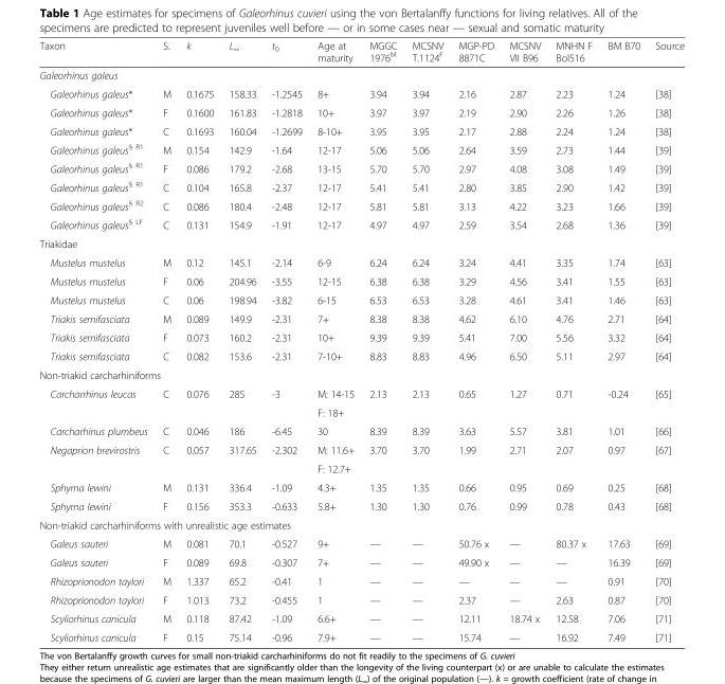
<table><thead><tr><td>Taxon</td><td>S.</td><td>k</td><td>L<sub>∞</sub></td><td>t<sub>0</sub></td><td>Age at maturity</td><td>MGGC 1976<sup>M</sup></td><td>MCSNV T.1124<sup>F</sup></td><td>MGP-PD 8871C</td><td>MCSNV VII B96</td><td>MNHN F Bol516</td><td>BM B70</td><td>Source</td></tr></thead><tbody><tr><td colspan="13">Galeorhinus galeus</td></tr><tr><td>Galeorhinus galeus*</td><td>M</td><td>0.1675</td><td>158.33</td><td>-1.2545</td><td>8+</td><td>3.94</td><td>3.94</td><td>2.16</td><td>2.87</td><td>2.23</td><td>1.24</td><td>[38]</td></tr><tr><td>Galeorhinus galeus*</td><td>F</td><td>0.1600</td><td>161.83</td><td>-1.2818</td><td>10+</td><td>3.97</td><td>3.97</td><td>2.19</td><td>2.90</td><td>2.26</td><td>1.26</td><td>[38]</td></tr><tr><td>Galeorhinus galeus*</td><td>C</td><td>0.1693</td><td>160.04</td><td>-1.2699</td><td>8-10+</td><td>3.95</td><td>3.95</td><td>2.17</td><td>2.88</td><td>2.24</td><td>1.24</td><td>[38]</td></tr><tr><td>Galeorhinus galeus<sup>§ R1</sup></td><td>M</td><td>0.154</td><td>142.9</td><td>-1.64</td><td>12-17</td><td>5.06</td><td>5.06</td><td>2.64</td><td>3.59</td><td>2.73</td><td>1.44</td><td>[39]</td></tr><tr><td>Galeorhinus galeus<sup>§ R1</sup></td><td>F</td><td>0.086</td><td>179.2</td><td>-2.68</td><td>13-15</td><td>5.70</td><td>5.70</td><td>2.97</td><td>4.08</td><td>3.08</td><td>1.49</td><td>[39]</td></tr><tr><td>Galeorhinus galeus<sup>§ R1</sup></td><td>C</td><td>0.104</td><td>165.8</td><td>-2.37</td><td>12-17</td><td>5.41</td><td>5.41</td><td>2.80</td><td>3.85</td><td>2.90</td><td>1.42</td><td>[39]</td></tr><tr><td>Galeorhinus galeus<sup>§ R2</sup></td><td>C</td><td>0.086</td><td>180.4</td><td>-2.48</td><td>12-17</td><td>5.81</td><td>5.81</td><td>3.13</td><td>4.22</td><td>3.23</td><td>1.66</td><td>[39]</td></tr><tr><td>Galeorhinus galeus<sup>§ LF</sup></td><td>C</td><td>0.131</td><td>154.9</td><td>-1.91</td><td>12-17</td><td>4.97</td><td>4.97</td><td>2.59</td><td>3.54</td><td>2.68</td><td>1.36</td><td>[39]</td></tr><tr><td colspan="13">Triakidae</td></tr><tr><td>Mustelus mustelus</td><td>M</td><td>0.12</td><td>145.1</td><td>-2.14</td><td>6-9</td><td>6.24</td><td>6.24</td><td>3.24</td><td>4.41</td><td>3.35</td><td>1.74</td><td>[63]</td></tr><tr><td>Mustelus mustelus</td><td>F</td><td>0.06</td><td>204.96</td><td>-3.55</td><td>12-15</td><td>6.38</td><td>6.38</td><td>3.29</td><td>4.56</td><td>3.41</td><td>1.55</td><td>[63]</td></tr><tr><td>Mustelus mustelus</td><td>C</td><td>0.06</td><td>198.94</td><td>-3.82</td><td>6-15</td><td>6.53</td><td>6.53</td><td>3.28</td><td>4.61</td><td>3.41</td><td>1.46</td><td>[63]</td></tr><tr><td>Triakis semifasciata</td><td>M</td><td>0.089</td><td>149.9</td><td>-2.31</td><td>7+</td><td>8.38</td><td>8.38</td><td>4.62</td><td>6.10</td><td>4.76</td><td>2.71</td><td>[64]</td></tr><tr><td>Triakis semifasciata</td><td>F</td><td>0.073</td><td>160.2</td><td>-2.31</td><td>10+</td><td>9.39</td><td>9.39</td><td>5.41</td><td>7.00</td><td>5.56</td><td>3.32</td><td>[64]</td></tr><tr><td>Triakis semifasciata</td><td>C</td><td>0.082</td><td>153.6</td><td>-2.31</td><td>7-10+</td><td>8.83</td><td>8.83</td><td>4.96</td><td>6.50</td><td>5.11</td><td>2.97</td><td>[64]</td></tr><tr><td colspan="13">Non-triakid carcharhiniforms</td></tr><tr><td rowspan="2">Carcharrhinus leucas</td><td rowspan="2">C</td><td rowspan="2">0.076</td><td rowspan="2">285</td><td rowspan="2">-3</td><td>M: 14-15</td><td rowspan="2">2.13</td><td rowspan="2">2.13</td><td rowspan="2">0.65</td><td rowspan="2">1.27</td><td rowspan="2">0.71</td><td rowspan="2">-0.24</td><td rowspan="2">[65]</td></tr><tr><td>F: 18+</td></tr><tr><td>Carcharhinus plumbeus</td><td>C</td><td>0.046</td><td>186</td><td>-6.45</td><td>30</td><td>8.39</td><td>8.39</td><td>3.63</td><td>5.57</td><td>3.81</td><td>1.01</td><td>[66]</td></tr><tr><td rowspan="2">Negaprion brevirostris</td><td rowspan="2">C</td><td rowspan="2">0.057</td><td rowspan="2">317.65</td><td rowspan="2">-2.302</td><td>M: 11.6+</td><td rowspan="2">3.70</td><td rowspan="2">3.70</td><td rowspan="2">1.99</td><td rowspan="2">2.71</td><td rowspan="2">2.07</td><td rowspan="2">0.97</td><td rowspan="2">[67]</td></tr><tr><td>F: 12.7+</td></tr><tr><td>Sphyrna lewini</td><td>M</td><td>0.131</td><td>336.4</td><td>-1.09</td><td>4.3+</td><td>1.35</td><td>1.35</td><td>0.66</td><td>0.95</td><td>0.69</td><td>0.25</td><td>[68]</td></tr><tr><td>Sphyrna lewini</td><td>F</td><td>0.156</td><td>353.3</td><td>-0.633</td><td>5.8+</td><td>1.30</td><td>1.30</td><td>0.76</td><td>0.99</td><td>0.78</td><td>0.43</td><td>[68]</td></tr><tr><td colspan="13">Non-triakid carcharhiniforms with unrealistic age estimates</td></tr><tr><td>Galeus sauteri</td><td>M</td><td>0.081</td><td>70.1</td><td>-0.527</td><td>9+</td><td>—</td><td>—</td><td>50.76 x</td><td>—</td><td>80.37 x</td><td>17.63</td><td>[69]</td></tr><tr><td>Galeus sauteri</td><td>F</td><td>0.089</td><td>69.8</td><td>-0.307</td><td>7+</td><td>—</td><td>—</td><td>49.90 x</td><td>—</td><td>—</td><td>16.39</td><td>[69]</td></tr><tr><td>Rhizoprionodon taylori</td><td>M</td><td>1.337</td><td>65.2</td><td>-0.41</td><td>1</td><td>—</td><td>—</td><td>—</td><td>—</td><td>—</td><td>0.91</td><td>[70]</td></tr><tr><td>Rhizoprionodon taylori</td><td>F</td><td>1.013</td><td>73.2</td><td>-0.455</td><td>1</td><td>—</td><td>—</td><td>2.37</td><td>—</td><td>2.63</td><td>0.87</td><td>[70]</td></tr><tr><td>Scyliorhinus canicula</td><td>M</td><td>0.118</td><td>87.42</td><td>-1.09</td><td>6.6+</td><td>—</td><td>—</td><td>12.11</td><td>18.74 x</td><td>12.58</td><td>7.06</td><td>[71]</td></tr><tr><td>Scyliorhinus canicula</td><td>F</td><td>0.15</td><td>75.14</td><td>-0.96</td><td>7.9+</td><td>—</td><td>—</td><td>15.74</td><td>—</td><td>16.92</td><td>7.49</td><td>[71]</td></tr></tbody></table>